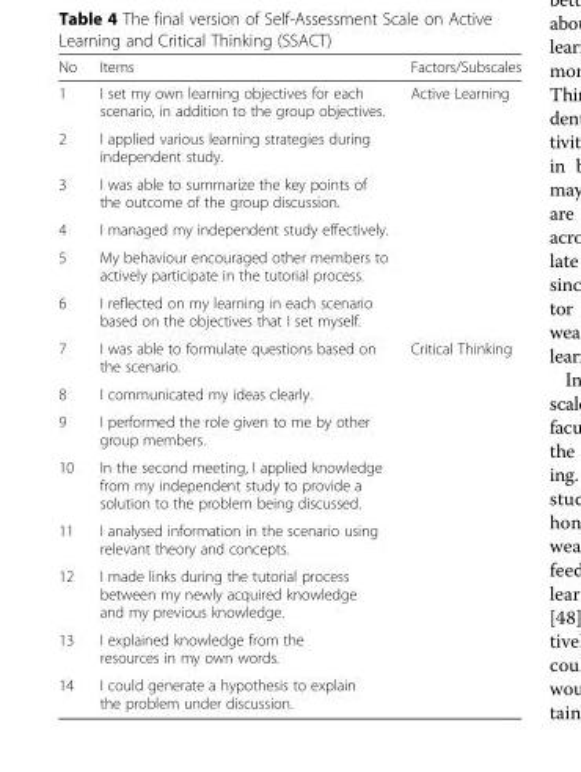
<table><thead><tr><td>No</td><td>Items</td><td>Factors/Subscales</td></tr></thead><tbody><tr><td>1</td><td>I set my own learning objectives for each scenario, in addition to the group objectives.</td><td rowspan="6">Active Learning</td></tr><tr><td>2</td><td>I applied various learning strategies during independent study.</td></tr><tr><td>3</td><td>I was able to summarize the key points of the outcome of the group discussion.</td></tr><tr><td>4</td><td>I managed my independent study effectively.</td></tr><tr><td>5</td><td>My behaviour encouraged other members to actively participate in the tutorial process.</td></tr><tr><td>6</td><td>I reflected on my learning in each scenario based on the objectives that I set myself.</td></tr><tr><td>7</td><td>I was able to formulate questions based on the scenario.</td><td rowspan="8">Critical Thinking</td></tr><tr><td>8</td><td>I communicated my ideas clearly.</td></tr><tr><td>9</td><td>I performed the role given to me by other group members.</td></tr><tr><td>10</td><td>In the second meeting, I applied knowledge from my independent study to provide a solution to the problem being discussed.</td></tr><tr><td>11</td><td>I analysed information in the scenario using relevant theory and concepts.</td></tr><tr><td>12</td><td>I made links during the tutorial process between my newly acquired knowledge and my previous knowledge.</td></tr><tr><td>13</td><td>I explained knowledge from the resources in my own words.</td></tr><tr><td>14</td><td>I could generate a hypothesis to explain the problem under discussion.</td></tr></tbody></table>